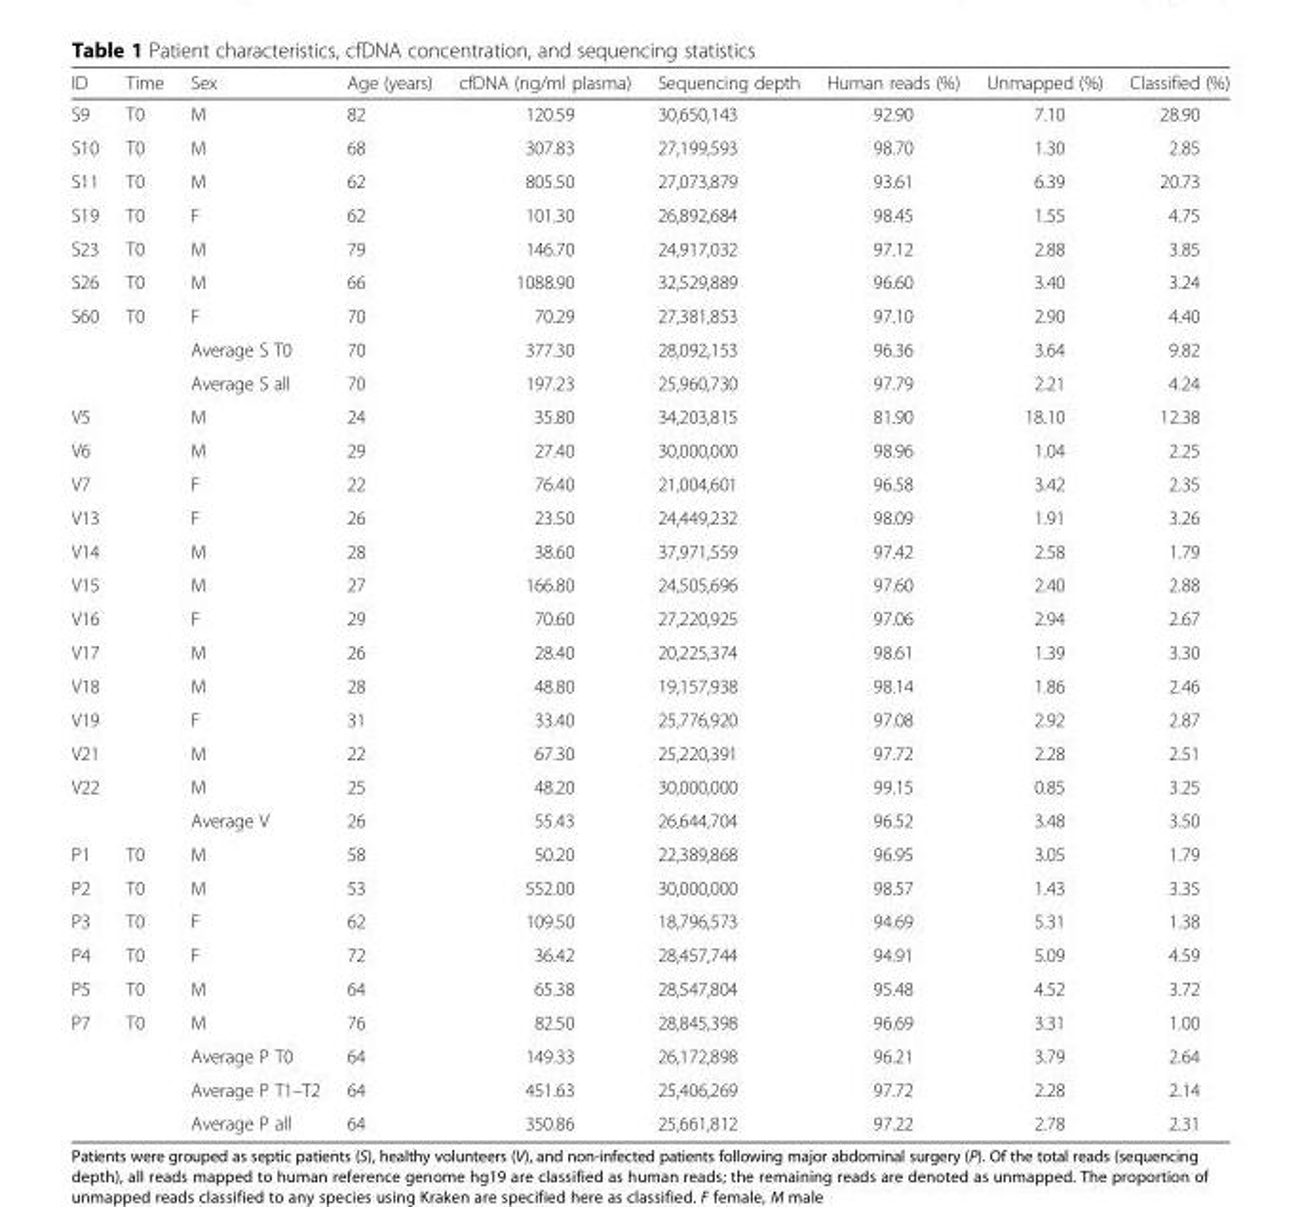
<table><thead><tr><td>ID</td><td>Time</td><td>Sex</td><td>Age (years)</td><td>cfDNA (ng/ml plasma)</td><td>Sequencing depth</td><td>Human reads (%)</td><td>Unmapped (%)</td><td>Classified (%)</td></tr></thead><tbody><tr><td>S9</td><td>T0</td><td>M</td><td>82</td><td>120.59</td><td>30,650,143</td><td>92.90</td><td>7.10</td><td>28.90</td></tr><tr><td>S10</td><td>T0</td><td>M</td><td>68</td><td>307.83</td><td>27,199,593</td><td>98.70</td><td>1.30</td><td>2.85</td></tr><tr><td>S11</td><td>T0</td><td>M</td><td>62</td><td>805.50</td><td>27,073,879</td><td>93.61</td><td>6.39</td><td>20.73</td></tr><tr><td>S19</td><td>T0</td><td>F</td><td>62</td><td>101.30</td><td>26,892,684</td><td>98.45</td><td>1.55</td><td>4.75</td></tr><tr><td>S23</td><td>T0</td><td>M</td><td>79</td><td>146.70</td><td>24,917,032</td><td>97.12</td><td>2.88</td><td>3.85</td></tr><tr><td>S26</td><td>T0</td><td>M</td><td>66</td><td>1088.90</td><td>32,529,889</td><td>96.60</td><td>3.40</td><td>3.24</td></tr><tr><td rowspan="3">S60</td><td>T0</td><td>F</td><td>70</td><td>70.29</td><td>27,381,853</td><td>97.10</td><td>2.90</td><td>4.40</td></tr><tr><td></td><td>Average S T0</td><td>70</td><td>377.30</td><td>28,092,153</td><td>96.36</td><td>3.64</td><td>9.82</td></tr><tr><td></td><td>Average S all</td><td>70</td><td>197.23</td><td>25,960,730</td><td>97.79</td><td>2.21</td><td>4.24</td></tr><tr><td>V5</td><td></td><td>M</td><td>24</td><td>35.80</td><td>34,203,815</td><td>81.90</td><td>18.10</td><td>12.38</td></tr><tr><td>V6</td><td></td><td>M</td><td>29</td><td>27.40</td><td>30,000,000</td><td>98.96</td><td>1.04</td><td>2.25</td></tr><tr><td>V7</td><td></td><td>F</td><td>22</td><td>76.40</td><td>21,004,601</td><td>96.58</td><td>3.42</td><td>2.35</td></tr><tr><td>V13</td><td></td><td>F</td><td>26</td><td>23.50</td><td>24,449,232</td><td>98.09</td><td>1.91</td><td>3.26</td></tr><tr><td>V14</td><td></td><td>M</td><td>28</td><td>38.60</td><td>37,971,559</td><td>97.42</td><td>2.58</td><td>1.79</td></tr><tr><td>V15</td><td></td><td>M</td><td>27</td><td>166.80</td><td>24,505,696</td><td>97.60</td><td>2.40</td><td>2.88</td></tr><tr><td>V16</td><td></td><td>F</td><td>29</td><td>70.60</td><td>27,220,925</td><td>97.06</td><td>2.94</td><td>2.67</td></tr><tr><td>V17</td><td></td><td>M</td><td>26</td><td>28.40</td><td>20,225,374</td><td>98.61</td><td>1.39</td><td>3.30</td></tr><tr><td>V18</td><td></td><td>M</td><td>28</td><td>48.80</td><td>19,157,938</td><td>98.14</td><td>1.86</td><td>2.46</td></tr><tr><td>V19</td><td></td><td>F</td><td>31</td><td>33.40</td><td>25,776,920</td><td>97.08</td><td>2.92</td><td>2.87</td></tr><tr><td>V21</td><td></td><td>M</td><td>22</td><td>67.30</td><td>25,220,391</td><td>97.72</td><td>2.28</td><td>2.51</td></tr><tr><td rowspan="2">V22</td><td></td><td>M</td><td>25</td><td>48.20</td><td>30,000,000</td><td>99.15</td><td>0.85</td><td>3.25</td></tr><tr><td></td><td>Average V</td><td>26</td><td>55.43</td><td>26,644,704</td><td>96.52</td><td>3.48</td><td>3.50</td></tr><tr><td>P1</td><td>T0</td><td>M</td><td>58</td><td>50.20</td><td>22,389,868</td><td>96.95</td><td>3.05</td><td>1.79</td></tr><tr><td>P2</td><td>T0</td><td>M</td><td>53</td><td>552.00</td><td>30,000,000</td><td>98.57</td><td>1.43</td><td>3.35</td></tr><tr><td>P3</td><td>T0</td><td>F</td><td>62</td><td>109.50</td><td>18,796,573</td><td>94.69</td><td>5.31</td><td>1.38</td></tr><tr><td>P4</td><td>T0</td><td>F</td><td>72</td><td>36.42</td><td>28,457,744</td><td>94.91</td><td>5.09</td><td>4.59</td></tr><tr><td>P5</td><td>T0</td><td>M</td><td>64</td><td>65.38</td><td>28,547,804</td><td>95.48</td><td>4.52</td><td>3.72</td></tr><tr><td rowspan="4">P7</td><td>T0</td><td>M</td><td>76</td><td>82.50</td><td>28,845,398</td><td>96.69</td><td>3.31</td><td>1.00</td></tr><tr><td></td><td>Average P T0</td><td>64</td><td>149.33</td><td>26,172,898</td><td>96.21</td><td>3.79</td><td>2.64</td></tr><tr><td></td><td>Average P T1–T2</td><td>64</td><td>451.63</td><td>25,406,269</td><td>97.72</td><td>2.28</td><td>2.14</td></tr><tr><td></td><td>Average P all</td><td>64</td><td>350.86</td><td>25,661,812</td><td>97.22</td><td>2.78</td><td>2.31</td></tr></tbody></table>